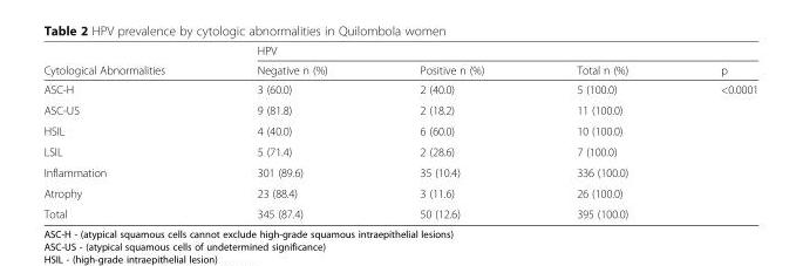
<table><thead><tr><td rowspan="2">Cytological Abnormalities</td><td colspan="4">HPV</td></tr><tr><td>Negative n (%)</td><td>Positive n (%)</td><td>Total n (%)</td><td>p</td></tr></thead><tbody><tr><td>ASC-H</td><td>3 (60.0)</td><td>2 (40.0)</td><td>5 (100.0)</td><td>&lt;0.0001</td></tr><tr><td>ASC-US</td><td>9 (81.8)</td><td>2 (18.2)</td><td>11 (100.0)</td><td></td></tr><tr><td>HSIL</td><td>4 (40.0)</td><td>6 (60.0)</td><td>10 (100.0)</td><td></td></tr><tr><td>LSIL</td><td>5 (71.4)</td><td>2 (28.6)</td><td>7 (100.0)</td><td></td></tr><tr><td>Inflammation</td><td>301 (89.6)</td><td>35 (10.4)</td><td>336 (100.0)</td><td></td></tr><tr><td>Atrophy</td><td>23 (88.4)</td><td>3 (11.6)</td><td>26 (100.0)</td><td></td></tr><tr><td>Total</td><td>345 (87.4)</td><td>50 (12.6)</td><td>395 (100.0)</td><td></td></tr></tbody></table>